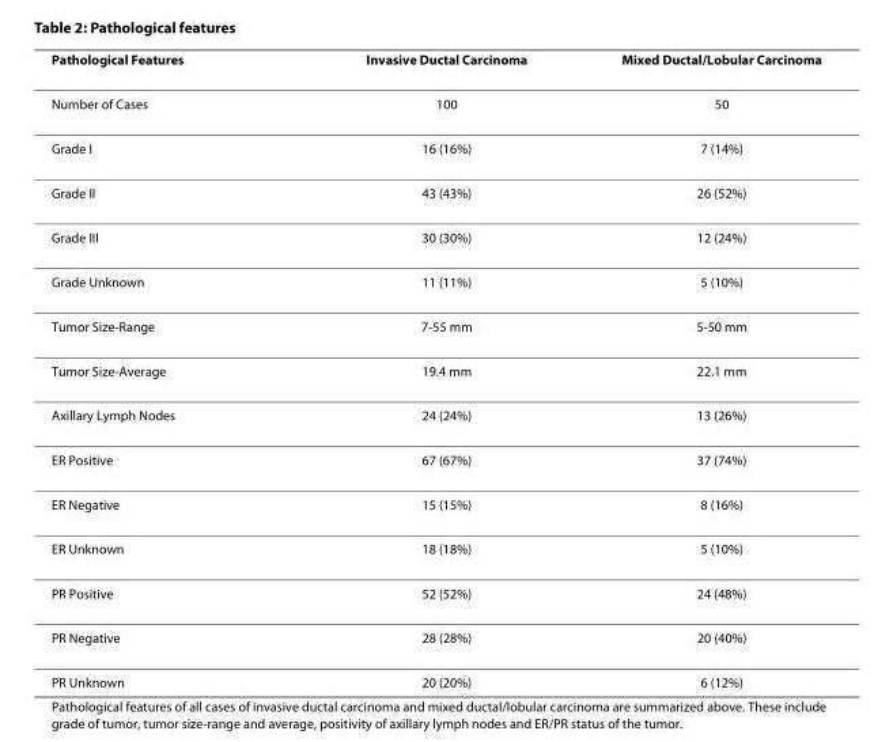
<table><thead><tr><td>Pathological Features</td><td>Invasive Ductal Carcinoma</td><td>Mixed Ductal/Lobular Carcinoma</td></tr></thead><tbody><tr><td>Number of Cases</td><td>100</td><td>50</td></tr><tr><td>Grade I</td><td>16 (16%)</td><td>7 (14%)</td></tr><tr><td>Grade II</td><td>43 (43%)</td><td>26 (52%)</td></tr><tr><td>Grade III</td><td>30 (30%)</td><td>12 (24%)</td></tr><tr><td>Grade Unknown</td><td>11 (11%)</td><td>5 (10%)</td></tr><tr><td>Tumor Size-Range</td><td>7-55 mm</td><td>5-50 mm</td></tr><tr><td>Tumor Size-Average</td><td>19.4 mm</td><td>22.1 mm</td></tr><tr><td>Axillary Lymph Nodes</td><td>24 (24%)</td><td>13 (26%)</td></tr><tr><td>ER Positive</td><td>67 (67%)</td><td>37 (74%)</td></tr><tr><td>ER Negative</td><td>15 (15%)</td><td>8 (16%)</td></tr><tr><td>ER Unknown</td><td>18 (18%)</td><td>5 (10%)</td></tr><tr><td>PR Positive</td><td>52 (52%)</td><td>24 (48%)</td></tr><tr><td>PR Negative</td><td>28 (28%)</td><td>20 (40%)</td></tr><tr><td>PR Unknown</td><td>20 (20%)</td><td>6 (12%)</td></tr></tbody></table>